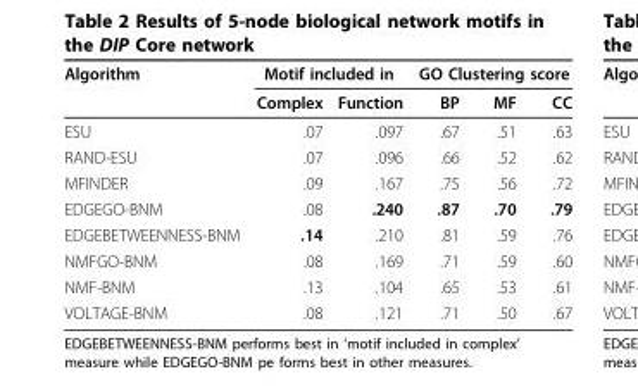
<table><thead><tr><td rowspan="2">Algorithm</td><td colspan="2">Motif included in</td><td colspan="3">GO Clustering score</td></tr><tr><td>Complex</td><td>Function</td><td>BP</td><td>MF</td><td>CC</td></tr></thead><tbody><tr><td>ESU</td><td>.07</td><td>.097</td><td>.67</td><td>.51</td><td>.63</td></tr><tr><td>RAND-ESU</td><td>.07</td><td>.096</td><td>.66</td><td>.52</td><td>.62</td></tr><tr><td>MFINDER</td><td>.09</td><td>.167</td><td>.75</td><td>.56</td><td>.72</td></tr><tr><td>EDGEGO-BNM</td><td>.08</td><td>.240</td><td>.87</td><td>.70</td><td>.79</td></tr><tr><td>EDGEBETWEENNESS-BNM</td><td>.14</td><td>.210</td><td>.81</td><td>.59</td><td>.76</td></tr><tr><td>NMFGO-BNM</td><td>.08</td><td>.169</td><td>.71</td><td>.59</td><td>.60</td></tr><tr><td>NMF-BNM</td><td>.13</td><td>.104</td><td>.65</td><td>.53</td><td>.61</td></tr><tr><td>VOLTAGE-BNM</td><td>.08</td><td>.121</td><td>.71</td><td>.50</td><td>.67</td></tr></tbody></table>